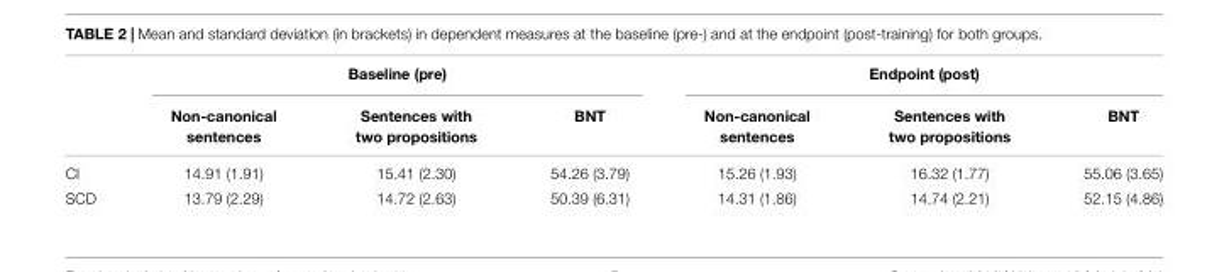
<table><thead><tr><td rowspan="2"></td><td colspan="3">Baseline (pre)</td><td colspan="3">Endpoint (post)</td></tr><tr><td>Non-canonical sentences</td><td>Sentences with two propositions</td><td>BNT</td><td>Non-canonical sentences</td><td>Sentences with two propositions</td><td>BNT</td></tr></thead><tbody><tr><td>CI</td><td>14.91 (1.91)</td><td>15.41 (2.30)</td><td>54.26 (3.79)</td><td>15.26 (1.93)</td><td>16.32 (1.77)</td><td>55.06 (3.65)</td></tr><tr><td>SCD</td><td>13.79 (2.29)</td><td>14.72 (2.63)</td><td>50.39 (6.31)</td><td>14.31 (1.86)</td><td>14.74 (2.21)</td><td>52.15 (4.86)</td></tr></tbody></table>